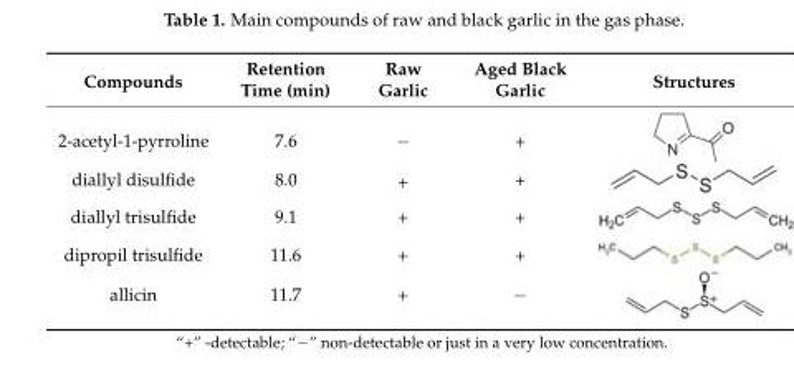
<table><thead><tr><td>Compounds</td><td>Retention Time (min)</td><td>Raw Garlic</td><td>Aged Black Garlic</td><td>Structures</td></tr></thead><tbody><tr><td>2-acetyl-1-pyrroline</td><td>7.6</td><td>−</td><td>+</td><td></td></tr><tr><td>diallyl disulfide</td><td>8.0</td><td>+</td><td>+</td><td></td></tr><tr><td>diallyl trisulfide</td><td>9.1</td><td>+</td><td>+</td><td></td></tr><tr><td>dipropil trisulfide</td><td>11.6</td><td>+</td><td>+</td><td></td></tr><tr><td>allicin</td><td>11.7</td><td>+</td><td>−</td><td></td></tr></tbody></table>